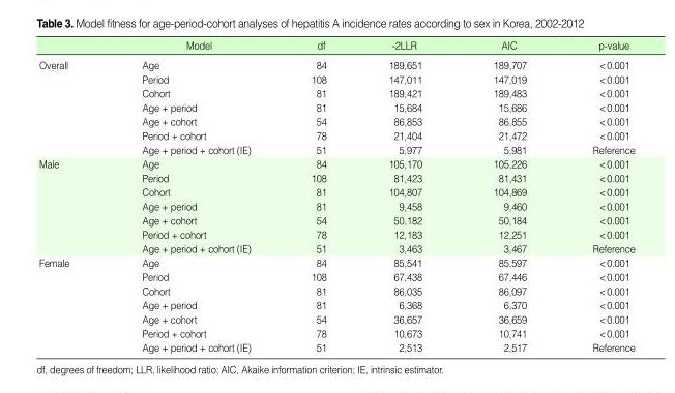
<table><thead><tr><td></td><td>Model</td><td>df</td><td>-2LLR</td><td>AIC</td><td>p-value</td></tr></thead><tbody><tr><td rowspan="7">Overall</td><td>Age</td><td>84</td><td>189,651</td><td>189,707</td><td>&lt;0.001</td></tr><tr><td>Period</td><td>108</td><td>147,011</td><td>147,019</td><td>&lt;0.001</td></tr><tr><td>Cohort</td><td>81</td><td>189,421</td><td>189,483</td><td>&lt;0.001</td></tr><tr><td>Age + period</td><td>81</td><td>15,684</td><td>15,686</td><td>&lt;0.001</td></tr><tr><td>Age + cohort</td><td>54</td><td>86,853</td><td>86,855</td><td>&lt;0.001</td></tr><tr><td>Period + cohort</td><td>78</td><td>21,404</td><td>21,472</td><td>&lt;0.001</td></tr><tr><td>Age + period + cohort (IE)</td><td>51</td><td>5,977</td><td>5,981</td><td>Reference</td></tr><tr><td rowspan="7">Male</td><td>Age</td><td>84</td><td>105,170</td><td>105,226</td><td>&lt;0.001</td></tr><tr><td>Period</td><td>108</td><td>81,423</td><td>81,431</td><td>&lt;0.001</td></tr><tr><td>Cohort</td><td>81</td><td>104,807</td><td>104,869</td><td>&lt;0.001</td></tr><tr><td>Age + period</td><td>81</td><td>9,458</td><td>9,460</td><td>&lt;0.001</td></tr><tr><td>Age + cohort</td><td>54</td><td>50,182</td><td>50,184</td><td>&lt;0.001</td></tr><tr><td>Period + cohort</td><td>78</td><td>12,183</td><td>12,251</td><td>&lt;0.001</td></tr><tr><td>Age + period + cohort (IE)</td><td>51</td><td>3,463</td><td>3,467</td><td>Reference</td></tr><tr><td rowspan="7">Female</td><td>Age</td><td>84</td><td>85,541</td><td>85,597</td><td>&lt;0.001</td></tr><tr><td>Period</td><td>108</td><td>67,438</td><td>67,446</td><td>&lt;0.001</td></tr><tr><td>Cohort</td><td>81</td><td>86,035</td><td>86,097</td><td>&lt;0.001</td></tr><tr><td>Age + period</td><td>81</td><td>6,368</td><td>6,370</td><td>&lt;0.001</td></tr><tr><td>Age + cohort</td><td>54</td><td>36,657</td><td>36,659</td><td>&lt;0.001</td></tr><tr><td>Period + cohort</td><td>78</td><td>10,673</td><td>10,741</td><td>&lt;0.001</td></tr><tr><td>Age + period + cohort (IE)</td><td>51</td><td>2,513</td><td>2,517</td><td>Reference</td></tr></tbody></table>